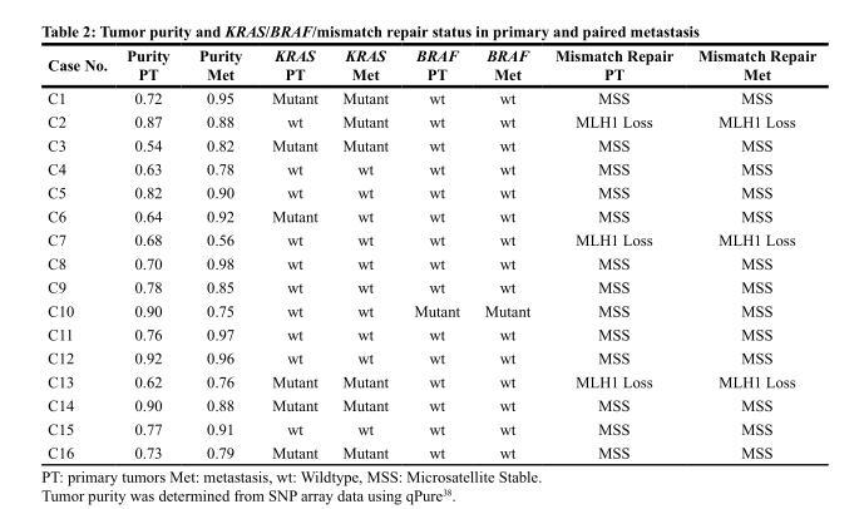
<table><thead><tr><td>Case No.</td><td>Purity PT</td><td>Purity Met</td><td>KRAS PT</td><td>KRAS Met</td><td>BRAF PT</td><td>BRAF Met</td><td>Mismatch Repair PT</td><td>Mismatch Repair Met</td></tr></thead><tbody><tr><td>C1</td><td>0.72</td><td>0.95</td><td>Mutant</td><td>Mutant</td><td>wt</td><td>wt</td><td>MSS</td><td>MSS</td></tr><tr><td>C2</td><td>0.87</td><td>0.88</td><td>wt</td><td>Mutant</td><td>wt</td><td>wt</td><td>MLH1 Loss</td><td>MLH1 Loss</td></tr><tr><td>C3</td><td>0.54</td><td>0.82</td><td>Mutant</td><td>Mutant</td><td>wt</td><td>wt</td><td>MSS</td><td>MSS</td></tr><tr><td>C4</td><td>0.63</td><td>0.78</td><td>wt</td><td>wt</td><td>wt</td><td>wt</td><td>MSS</td><td>MSS</td></tr><tr><td>C5</td><td>0.82</td><td>0.90</td><td>wt</td><td>wt</td><td>wt</td><td>wt</td><td>MSS</td><td>MSS</td></tr><tr><td>C6</td><td>0.64</td><td>0.92</td><td>Mutant</td><td>wt</td><td>wt</td><td>wt</td><td>MSS</td><td>MSS</td></tr><tr><td>C7</td><td>0.68</td><td>0.56</td><td>wt</td><td>wt</td><td>wt</td><td>wt</td><td>MLH1 Loss</td><td>MLH1 Loss</td></tr><tr><td>C8</td><td>0.70</td><td>0.98</td><td>wt</td><td>wt</td><td>wt</td><td>wt</td><td>MSS</td><td>MSS</td></tr><tr><td>C9</td><td>0.78</td><td>0.85</td><td>wt</td><td>wt</td><td>wt</td><td>wt</td><td>MSS</td><td>MSS</td></tr><tr><td>C10</td><td>0.90</td><td>0.75</td><td>wt</td><td>wt</td><td>Mutant</td><td>Mutant</td><td>MSS</td><td>MSS</td></tr><tr><td>C11</td><td>0.76</td><td>0.97</td><td>wt</td><td>wt</td><td>wt</td><td>wt</td><td>MSS</td><td>MSS</td></tr><tr><td>C12</td><td>0.92</td><td>0.96</td><td>wt</td><td>wt</td><td>wt</td><td>wt</td><td>MSS</td><td>MSS</td></tr><tr><td>C13</td><td>0.62</td><td>0.76</td><td>Mutant</td><td>Mutant</td><td>wt</td><td>wt</td><td>MLH1 Loss</td><td>MLH1 Loss</td></tr><tr><td>C14</td><td>0.90</td><td>0.88</td><td>Mutant</td><td>Mutant</td><td>wt</td><td>wt</td><td>MSS</td><td>MSS</td></tr><tr><td>C15</td><td>0.77</td><td>0.91</td><td>wt</td><td>wt</td><td>wt</td><td>wt</td><td>MSS</td><td>MSS</td></tr><tr><td>C16</td><td>0.73</td><td>0.79</td><td>Mutant</td><td>Mutant</td><td>wt</td><td>wt</td><td>MSS</td><td>MSS</td></tr></tbody></table>